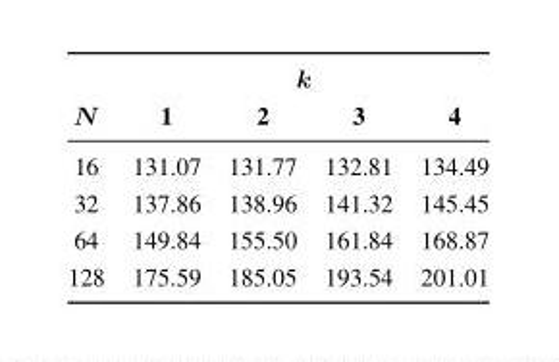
<table><thead><tr><td rowspan="2">N</td><td colspan="4">k</td></tr><tr><td>1</td><td>2</td><td>3</td><td>4</td></tr></thead><tbody><tr><td>16</td><td>131.07</td><td>131.77</td><td>132.81</td><td>134.49</td></tr><tr><td>32</td><td>137.86</td><td>138.96</td><td>141.32</td><td>145.45</td></tr><tr><td>64</td><td>149.84</td><td>155.50</td><td>161.84</td><td>168.87</td></tr><tr><td>128</td><td>175.59</td><td>185.05</td><td>193.54</td><td>201.01</td></tr></tbody></table>